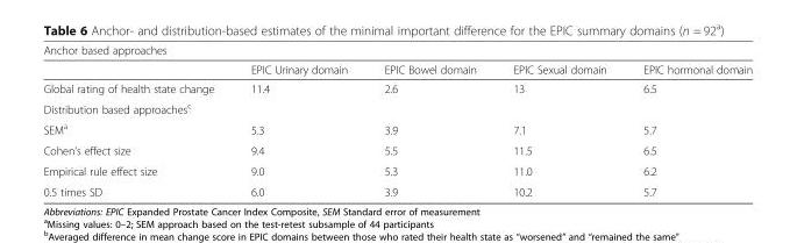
<table><thead><tr><td colspan="5">Anchor based approaches</td></tr><tr><td></td><td>EPIC Urinary domain</td><td>EPIC Bowel domain</td><td>EPIC Sexual domain</td><td>EPIC hormonal domain</td></tr></thead><tbody><tr><td>Global rating of health state change</td><td>11.4</td><td>2.6</td><td>13</td><td>6.5</td></tr><tr><td colspan="5">Distribution based approaches<sup>c</sup></td></tr><tr><td>SEM<sup>a</sup></td><td>5.3</td><td>3.9</td><td>7.1</td><td>5.7</td></tr><tr><td>Cohen’s effect size</td><td>9.4</td><td>5.5</td><td>11.5</td><td>6.5</td></tr><tr><td>Empirical rule effect size</td><td>9.0</td><td>5.3</td><td>11.0</td><td>6.2</td></tr><tr><td>0.5 times SD</td><td>6.0</td><td>3.9</td><td>10.2</td><td>5.7</td></tr></tbody></table>